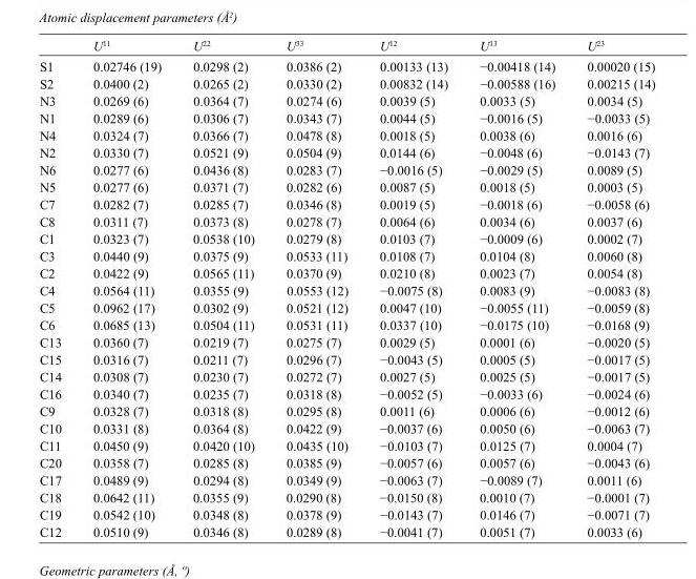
<table><thead><tr><td></td><td>U<sup>11</sup></td><td>U<sup>22</sup></td><td>U<sup>33</sup></td><td>U<sup>12</sup></td><td>U<sup>13</sup></td><td>U<sup>23</sup></td></tr></thead><tbody><tr><td>S1</td><td>0.02746 (19)</td><td>0.0298 (2)</td><td>0.0386 (2)</td><td>0.00133 (13)</td><td>−0.00418 (14)</td><td>0.00020 (15)</td></tr><tr><td>S2</td><td>0.0400 (2)</td><td>0.0265 (2)</td><td>0.0330 (2)</td><td>0.00832 (14)</td><td>−0.00588 (16)</td><td>0.00215 (14)</td></tr><tr><td>N3</td><td>0.0269 (6)</td><td>0.0364 (7)</td><td>0.0274 (6)</td><td>0.0039 (5)</td><td>0.0033 (5)</td><td>0.0034 (5)</td></tr><tr><td>N1</td><td>0.0289 (6)</td><td>0.0306 (7)</td><td>0.0343 (7)</td><td>0.0044 (5)</td><td>−0.0016 (5)</td><td>−0.0033 (5)</td></tr><tr><td>N4</td><td>0.0324 (7)</td><td>0.0366 (7)</td><td>0.0478 (8)</td><td>0.0018 (5)</td><td>0.0038 (6)</td><td>0.0016 (6)</td></tr><tr><td>N2</td><td>0.0330 (7)</td><td>0.0521 (9)</td><td>0.0504 (9)</td><td>0.0144 (6)</td><td>−0.0048 (6)</td><td>−0.0143 (7)</td></tr><tr><td>N6</td><td>0.0277 (6)</td><td>0.0436 (8)</td><td>0.0283 (7)</td><td>−0.0016 (5)</td><td>−0.0029 (5)</td><td>0.0089 (5)</td></tr><tr><td>N5</td><td>0.0277 (6)</td><td>0.0371 (7)</td><td>0.0282 (6)</td><td>0.0087 (5)</td><td>0.0018 (5)</td><td>0.0003 (5)</td></tr><tr><td>C7</td><td>0.0282 (7)</td><td>0.0285 (7)</td><td>0.0346 (8)</td><td>0.0019 (5)</td><td>−0.0018 (6)</td><td>−0.0058 (6)</td></tr><tr><td>C8</td><td>0.0311 (7)</td><td>0.0373 (8)</td><td>0.0278 (7)</td><td>0.0064 (6)</td><td>0.0034 (6)</td><td>0.0037 (6)</td></tr><tr><td>C1</td><td>0.0323 (7)</td><td>0.0538 (10)</td><td>0.0279 (8)</td><td>0.0103 (7)</td><td>−0.0009 (6)</td><td>0.0002 (7)</td></tr><tr><td>C3</td><td>0.0440 (9)</td><td>0.0375 (9)</td><td>0.0533 (11)</td><td>0.0108 (7)</td><td>0.0104 (8)</td><td>0.0060 (8)</td></tr><tr><td>C2</td><td>0.0422 (9)</td><td>0.0565 (11)</td><td>0.0370 (9)</td><td>0.0210 (8)</td><td>0.0023 (7)</td><td>0.0054 (8)</td></tr><tr><td>C4</td><td>0.0564 (11)</td><td>0.0355 (9)</td><td>0.0553 (12)</td><td>−0.0075 (8)</td><td>0.0083 (9)</td><td>−0.0083 (8)</td></tr><tr><td>C5</td><td>0.0962 (17)</td><td>0.0302 (9)</td><td>0.0521 (12)</td><td>0.0047 (10)</td><td>−0.0055 (11)</td><td>−0.0059 (8)</td></tr><tr><td>C6</td><td>0.0685 (13)</td><td>0.0504 (11)</td><td>0.0531 (11)</td><td>0.0337 (10)</td><td>−0.0175 (10)</td><td>−0.0168 (9)</td></tr><tr><td>C13</td><td>0.0360 (7)</td><td>0.0219 (7)</td><td>0.0275 (7)</td><td>0.0029 (5)</td><td>0.0001 (6)</td><td>−0.0020 (5)</td></tr><tr><td>C15</td><td>0.0316 (7)</td><td>0.0211 (7)</td><td>0.0296 (7)</td><td>−0.0043 (5)</td><td>0.0005 (5)</td><td>−0.0017 (5)</td></tr><tr><td>C14</td><td>0.0308 (7)</td><td>0.0230 (7)</td><td>0.0272 (7)</td><td>0.0027 (5)</td><td>0.0025 (5)</td><td>−0.0017 (5)</td></tr><tr><td>C16</td><td>0.0340 (7)</td><td>0.0235 (7)</td><td>0.0318 (8)</td><td>−0.0052 (5)</td><td>−0.0033 (6)</td><td>−0.0024 (6)</td></tr><tr><td>C9</td><td>0.0328 (7)</td><td>0.0318 (8)</td><td>0.0295 (8)</td><td>0.0011 (6)</td><td>0.0006 (6)</td><td>−0.0012 (6)</td></tr><tr><td>C10</td><td>0.0331 (8)</td><td>0.0364 (8)</td><td>0.0422 (9)</td><td>−0.0037 (6)</td><td>0.0050 (6)</td><td>−0.0063 (7)</td></tr><tr><td>C11</td><td>0.0450 (9)</td><td>0.0420 (10)</td><td>0.0435 (10)</td><td>−0.0103 (7)</td><td>0.0125 (7)</td><td>0.0004 (7)</td></tr><tr><td>C20</td><td>0.0358 (7)</td><td>0.0285 (8)</td><td>0.0385 (9)</td><td>−0.0057 (6)</td><td>0.0057 (6)</td><td>−0.0043 (6)</td></tr><tr><td>C17</td><td>0.0489 (9)</td><td>0.0294 (8)</td><td>0.0349 (9)</td><td>−0.0063 (7)</td><td>−0.0089 (7)</td><td>0.0011 (6)</td></tr><tr><td>C18</td><td>0.0642 (11)</td><td>0.0355 (9)</td><td>0.0290 (8)</td><td>−0.0150 (8)</td><td>0.0010 (7)</td><td>−0.0001 (7)</td></tr><tr><td>C19</td><td>0.0542 (10)</td><td>0.0348 (8)</td><td>0.0378 (9)</td><td>−0.0143 (7)</td><td>0.0146 (7)</td><td>−0.0071 (7)</td></tr><tr><td>C12</td><td>0.0510 (9)</td><td>0.0346 (8)</td><td>0.0289 (8)</td><td>−0.0041 (7)</td><td>0.0051 (7)</td><td>0.0033 (6)</td></tr></tbody></table>